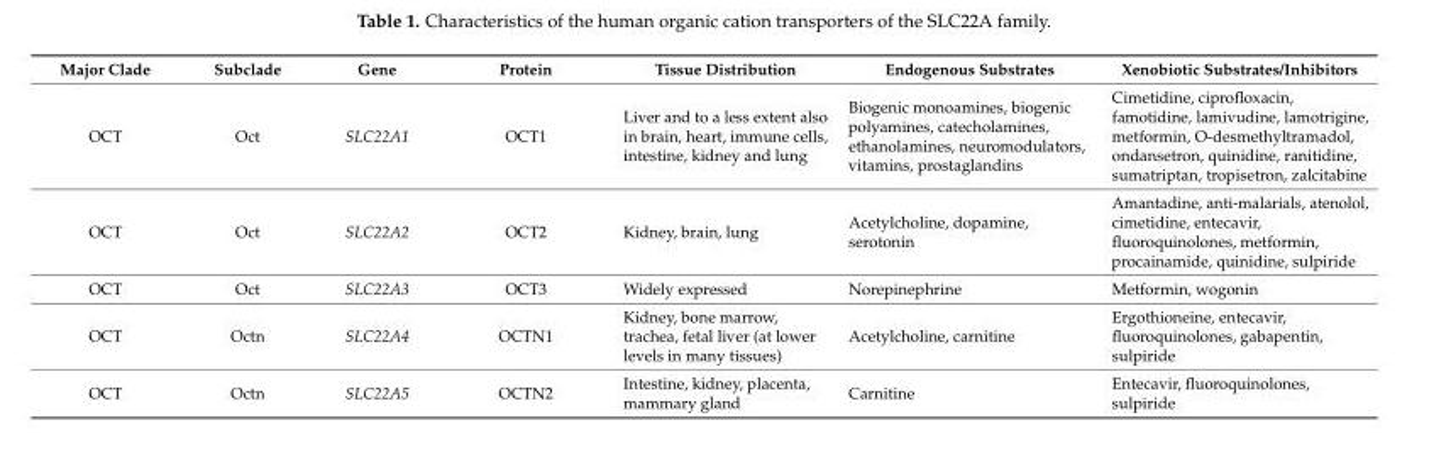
<table><thead><tr><td>Major Clade</td><td>Subclade</td><td>Gene</td><td>Protein</td><td>Tissue Distribution</td><td>Endogenous Substrates</td><td>Xenobiotic Substrates/Inhibitors</td></tr></thead><tbody><tr><td>OCT</td><td>Oct</td><td>SLC22A1</td><td>OCT1</td><td>Liver and to a less extent also in brain, heart, immune cells, intestine, kidney and lung</td><td>Biogenic monoamines, biogenic polyamines, catecholamines, ethanolamines, neuromodulators, vitamins, prostaglandins</td><td>Cimetidine, ciprofloxacin, famotidine, lamivudine, lamotrigine, metformin, O-desmethyltramadol, ondansetron, quinidine, ranitidine, sumatriptan, tropisetron, zalcitabine</td></tr><tr><td>OCT</td><td>Oct</td><td>SLC22A2</td><td>OCT2</td><td>Kidney, brain, lung</td><td>Acetylcholine, dopamine, serotonin</td><td>Amantadine, anti-malarials, atenolol, cimetidine, entecavir, fluoroquinolones, metformin, procainamide, quinidine, sulpiride</td></tr><tr><td>OCT</td><td>Oct</td><td>SLC22A3</td><td>OCT3</td><td>Widely expressed</td><td>Norepinephrine</td><td>Metformin, wogonin</td></tr><tr><td>OCT</td><td>Octn</td><td>SLC22A4</td><td>OCTN1</td><td>Kidney, bone marrow, trachea, fetal liver (at lower levels in many tissues)</td><td>Acetylcholine, carnitine</td><td>Ergothioneine, entecavir, fluoroquinolones, gabapentin, sulpiride</td></tr><tr><td>OCT</td><td>Octn</td><td>SLC22A5</td><td>OCTN2</td><td>Intestine, kidney, placenta, mammary gland</td><td>Carnitine</td><td>Entecavir, fluoroquinolones, sulpiride</td></tr></tbody></table>